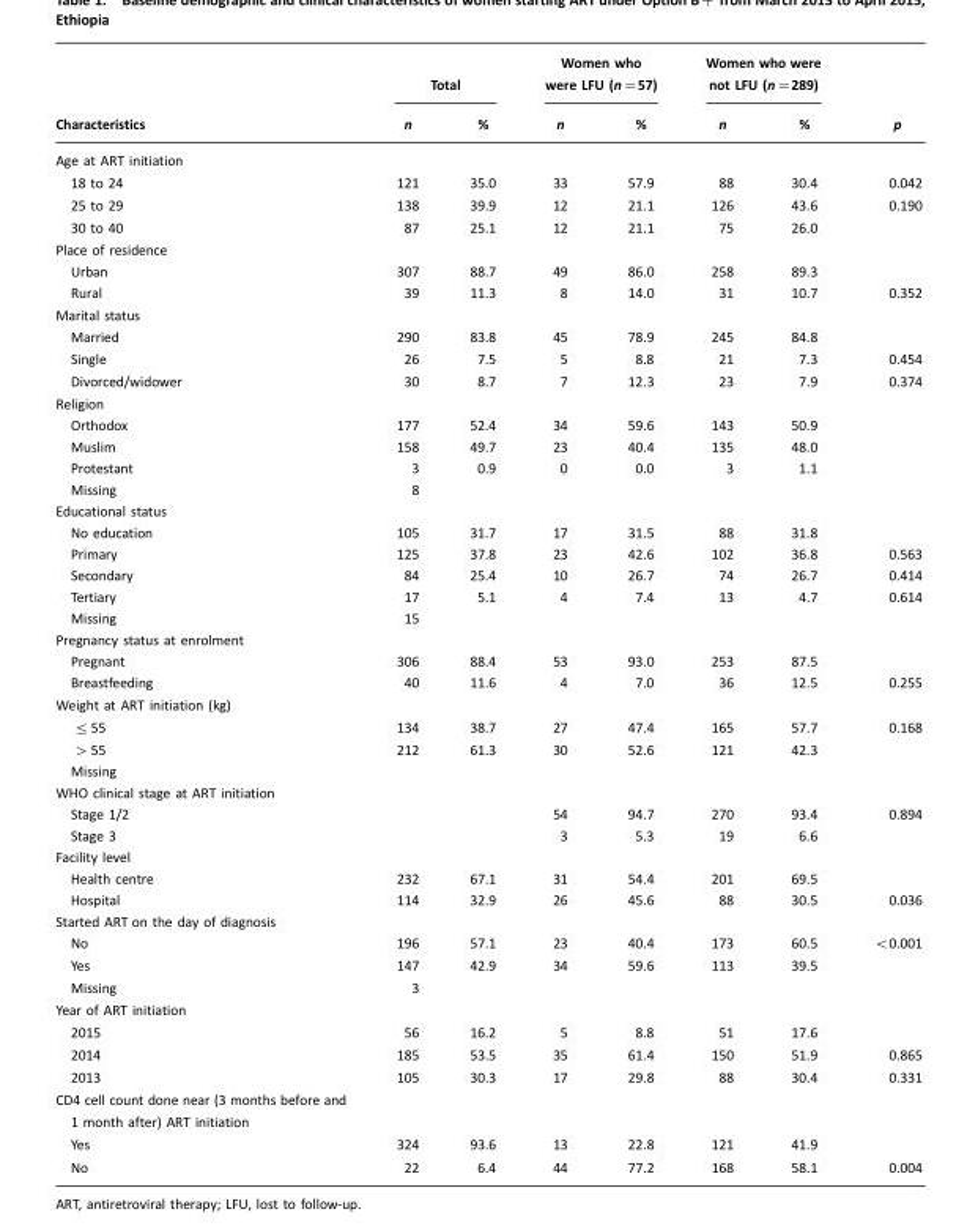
<table><thead><tr><td rowspan="2">Characteristics</td><td colspan="2">Total</td><td colspan="2">Women who were LFU (n=57)</td><td colspan="2">Women who were not LFU (n=289)</td><td rowspan="2">p</td></tr><tr><td>n</td><td>%</td><td>n</td><td>%</td><td>n</td><td>%</td></tr></thead><tbody><tr><td colspan="8">Age at ART initiation</td></tr><tr><td>18 to 24</td><td>121</td><td>35.0</td><td>33</td><td>57.9</td><td>88</td><td>30.4</td><td>0.042</td></tr><tr><td>25 to 29</td><td>138</td><td>39.9</td><td>12</td><td>21.1</td><td>126</td><td>43.6</td><td>0.190</td></tr><tr><td>30 to 40</td><td>87</td><td>25.1</td><td>12</td><td>21.1</td><td>75</td><td>26.0</td><td></td></tr><tr><td colspan="8">Place of residence</td></tr><tr><td>Urban</td><td>307</td><td>88.7</td><td>49</td><td>86.0</td><td>258</td><td>89.3</td><td></td></tr><tr><td>Rural</td><td>39</td><td>11.3</td><td>8</td><td>14.0</td><td>31</td><td>10.7</td><td>0.352</td></tr><tr><td colspan="8">Marital status</td></tr><tr><td>Married</td><td>290</td><td>83.8</td><td>45</td><td>78.9</td><td>245</td><td>84.8</td><td></td></tr><tr><td>Single</td><td>26</td><td>7.5</td><td>5</td><td>8.8</td><td>21</td><td>7.3</td><td>0.454</td></tr><tr><td>Divorced/widower</td><td>30</td><td>8.7</td><td>7</td><td>12.3</td><td>23</td><td>7.9</td><td>0.374</td></tr><tr><td colspan="8">Religion</td></tr><tr><td>Orthodox</td><td>177</td><td>52.4</td><td>34</td><td>59.6</td><td>143</td><td>50.9</td><td></td></tr><tr><td>Muslim</td><td>158</td><td>49.7</td><td>23</td><td>40.4</td><td>135</td><td>48.0</td><td></td></tr><tr><td>Protestant</td><td>3</td><td>0.9</td><td>0</td><td>0.0</td><td>3</td><td>1.1</td><td></td></tr><tr><td>Missing</td><td>8</td><td></td><td></td><td></td><td></td><td></td><td></td></tr><tr><td colspan="8">Educational status</td></tr><tr><td>No education</td><td>105</td><td>31.7</td><td>17</td><td>31.5</td><td>88</td><td>31.8</td><td></td></tr><tr><td>Primary</td><td>125</td><td>37.8</td><td>23</td><td>42.6</td><td>102</td><td>36.8</td><td>0.563</td></tr><tr><td>Secondary</td><td>84</td><td>25.4</td><td>10</td><td>26.7</td><td>74</td><td>26.7</td><td>0.414</td></tr><tr><td>Tertiary</td><td>17</td><td>5.1</td><td>4</td><td>7.4</td><td>13</td><td>4.7</td><td>0.614</td></tr><tr><td>Missing</td><td>15</td><td></td><td></td><td></td><td></td><td></td><td></td></tr><tr><td colspan="8">Pregnancy status at enrolment</td></tr><tr><td>Pregnant</td><td>306</td><td>88.4</td><td>53</td><td>93.0</td><td>253</td><td>87.5</td><td></td></tr><tr><td>Breastfeeding</td><td>40</td><td>11.6</td><td>4</td><td>7.0</td><td>36</td><td>12.5</td><td>0.255</td></tr><tr><td colspan="8">Weight at ART initiation (kg)</td></tr><tr><td>≤55</td><td>134</td><td>38.7</td><td>27</td><td>47.4</td><td>165</td><td>57.7</td><td>0.168</td></tr><tr><td>&gt;55</td><td>212</td><td>61.3</td><td>30</td><td>52.6</td><td>121</td><td>42.3</td><td></td></tr><tr><td colspan="8">Missing</td></tr><tr><td colspan="8">WHO clinical stage at ART initiation</td></tr><tr><td>Stage 1/2</td><td></td><td></td><td>54</td><td>94.7</td><td>270</td><td>93.4</td><td>0.894</td></tr><tr><td>Stage 3</td><td></td><td></td><td>3</td><td>5.3</td><td>19</td><td>6.6</td><td></td></tr><tr><td colspan="8">Facility level</td></tr><tr><td>Health centre</td><td>232</td><td>67.1</td><td>31</td><td>54.4</td><td>201</td><td>69.5</td><td></td></tr><tr><td>Hospital</td><td>114</td><td>32.9</td><td>26</td><td>45.6</td><td>88</td><td>30.5</td><td>0.036</td></tr><tr><td colspan="8">Started ART on the day of diagnosis</td></tr><tr><td>No</td><td>196</td><td>57.1</td><td>23</td><td>40.4</td><td>173</td><td>60.5</td><td>&lt;0.001</td></tr><tr><td>Yes</td><td>147</td><td>42.9</td><td>34</td><td>59.6</td><td>113</td><td>39.5</td><td></td></tr><tr><td>Missing</td><td>3</td><td></td><td></td><td></td><td></td><td></td><td></td></tr><tr><td colspan="8">Year of ART initiation</td></tr><tr><td>2015</td><td>56</td><td>16.2</td><td>5</td><td>8.8</td><td>51</td><td>17.6</td><td></td></tr><tr><td>2014</td><td>185</td><td>53.5</td><td>35</td><td>61.4</td><td>150</td><td>51.9</td><td>0.865</td></tr><tr><td>2013</td><td>105</td><td>30.3</td><td>17</td><td>29.8</td><td>88</td><td>30.4</td><td>0.331</td></tr><tr><td colspan="8">CD4 cell count done near (3 months before and 1 month after) ART initiation</td></tr><tr><td>Yes</td><td>324</td><td>93.6</td><td>13</td><td>22.8</td><td>121</td><td>41.9</td><td></td></tr><tr><td>No</td><td>22</td><td>6.4</td><td>44</td><td>77.2</td><td>168</td><td>58.1</td><td>0.004</td></tr></tbody></table>